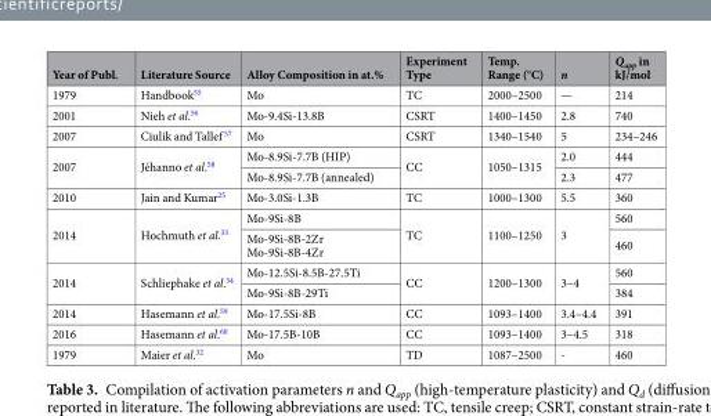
<table><thead><tr><td>Year of Publ.</td><td>Literature Source</td><td>Alloy Composition in at.%</td><td>Experiment Type</td><td>Temp. Range (°C)</td><td>n</td><td>Q<sub>app</sub> in kJ/mol</td></tr></thead><tbody><tr><td>1979</td><td>Handbook<sup>55</sup></td><td>Mo</td><td>TC</td><td>2000–2500</td><td>—</td><td>214</td></tr><tr><td>2001</td><td>Nieh et al.<sup>56</sup></td><td>Mo-9.4Si-13.8B</td><td>CSRT</td><td>1400–1450</td><td>2.8</td><td>740</td></tr><tr><td>2007</td><td>Ciulik and Tallef <sup>57</sup></td><td>Mo</td><td>CSRT</td><td>1340–1540</td><td>5</td><td>234–246</td></tr><tr><td rowspan="2">2007</td><td rowspan="2">Jéhanno et al.<sup>58</sup></td><td>Mo-8.9Si-7.7B (HIP)</td><td rowspan="2">CC</td><td rowspan="2">1050–1315</td><td>2.0</td><td>444</td></tr><tr><td>Mo-8.9Si-7.7B (annealed)</td><td>2.3</td><td>477</td></tr><tr><td>2010</td><td>Jain and Kumar<sup>25</sup></td><td>Mo-3.0Si-1.3B</td><td>TC</td><td>1000–1300</td><td>5.5</td><td>360</td></tr><tr><td rowspan="2">2014</td><td rowspan="2">Hochmuth et al.<sup>33</sup></td><td>Mo-9Si-8B</td><td rowspan="2">TC</td><td rowspan="2">1100–1250</td><td rowspan="2">3</td><td>560</td></tr><tr><td>Mo-9Si-8B-2Zr Mo-9Si-8B-4Zr</td><td>460</td></tr><tr><td rowspan="2">2014</td><td rowspan="2">Schliephake et al.<sup>34</sup></td><td>Mo-12.5Si-8.5B-27.5Ti</td><td rowspan="2">CC</td><td rowspan="2">1200–1300</td><td rowspan="2">3–4</td><td>560</td></tr><tr><td>Mo-9Si-8B-29Ti</td><td>384</td></tr><tr><td>2014</td><td>Hasemann et al.<sup>59</sup></td><td>Mo-17.5Si-8B</td><td>CC</td><td>1093–1400</td><td>3.4–4.4</td><td>391</td></tr><tr><td>2016</td><td>Hasemann et al.<sup>60</sup></td><td>Mo-17.5B-10B</td><td>CC</td><td>1093–1400</td><td>3–4.5</td><td>318</td></tr><tr><td>1979</td><td>Maier et al.<sup>32</sup></td><td>Mo</td><td>TD</td><td>1087–2500</td><td>-</td><td>460</td></tr></tbody></table>